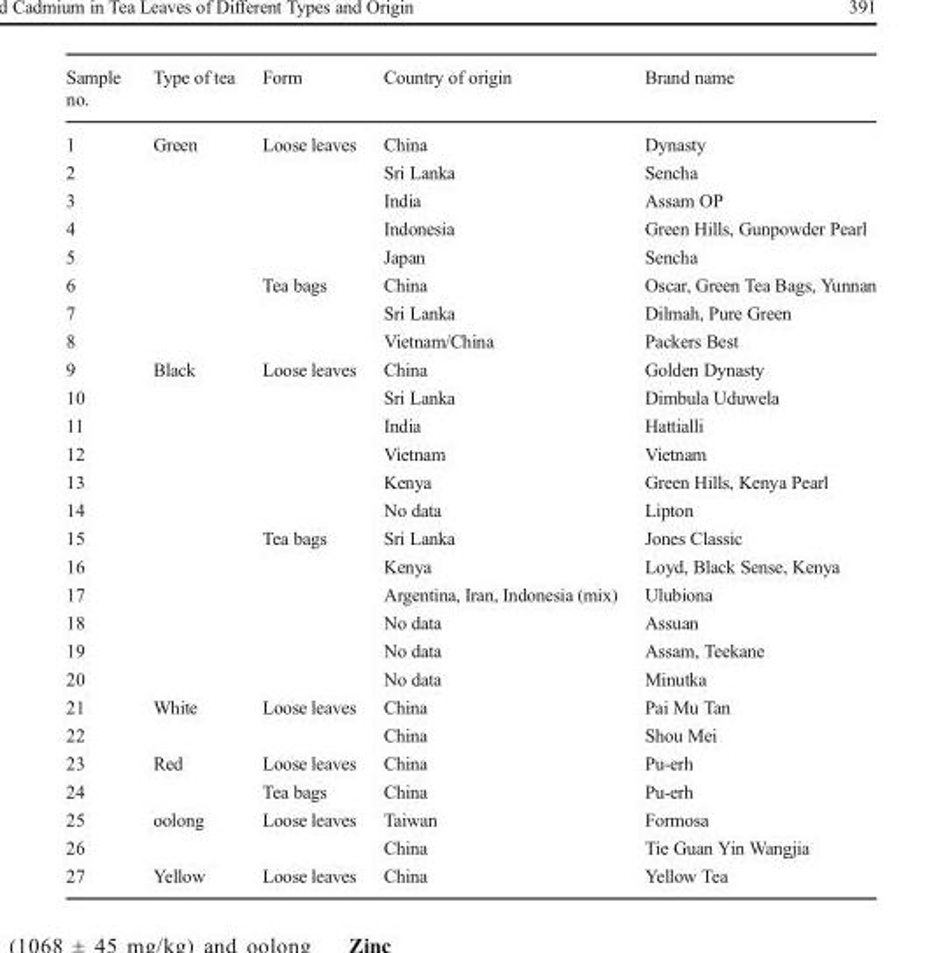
<table><thead><tr><td>Sample no.</td><td>Type of tea</td><td>Form</td><td>Country of origin</td><td>Brand name</td></tr></thead><tbody><tr><td>1</td><td rowspan="8">Green</td><td rowspan="5">Loose leaves</td><td>China</td><td>Dynasty</td></tr><tr><td>2</td><td>Sri Lanka</td><td>Sencha</td></tr><tr><td>3</td><td>India</td><td>Assam OP</td></tr><tr><td>4</td><td>Indonesia</td><td>Green Hills, Gunpowder Pearl</td></tr><tr><td>5</td><td>Japan</td><td>Sencha</td></tr><tr><td>6</td><td rowspan="3">Tea bags</td><td>China</td><td>Oscar, Green Tea Bags, Yunnan</td></tr><tr><td>7</td><td>Sri Lanka</td><td>Dilmah, Pure Green</td></tr><tr><td>8</td><td>Vietnam/China</td><td>Packers Best</td></tr><tr><td>9</td><td rowspan="12">Black</td><td rowspan="6">Loose leaves</td><td>China</td><td>Golden Dynasty</td></tr><tr><td>10</td><td>Sri Lanka</td><td>Dimbula Uduwela</td></tr><tr><td>11</td><td>India</td><td>Hattialli</td></tr><tr><td>12</td><td>Vietnam</td><td>Vietnam</td></tr><tr><td>13</td><td>Kenya</td><td>Green Hills, Kenya Pearl</td></tr><tr><td>14</td><td>No data</td><td>Lipton</td></tr><tr><td>15</td><td rowspan="6">Tea bags</td><td>Sri Lanka</td><td>Jones Classic</td></tr><tr><td>16</td><td>Kenya</td><td>Loyd, Black Sense, Kenya</td></tr><tr><td>17</td><td>Argentina, Iran, Indonesia (mix)</td><td>Ulubiona</td></tr><tr><td>18</td><td>No data</td><td>Assuan</td></tr><tr><td>19</td><td>No data</td><td>Assam, Teekane</td></tr><tr><td>20</td><td>No data</td><td>Minutka</td></tr><tr><td>21</td><td rowspan="2">White</td><td rowspan="2">Loose leaves</td><td>China</td><td>Pai Mu Tan</td></tr><tr><td>22</td><td>China</td><td>Shou Mei</td></tr><tr><td>23</td><td rowspan="2">Red</td><td>Loose leaves</td><td>China</td><td>Pu-erh</td></tr><tr><td>24</td><td>Tea bags</td><td>China</td><td>Pu-erh</td></tr><tr><td>25</td><td rowspan="2">oolong</td><td rowspan="2">Loose leaves</td><td>Taiwan</td><td>Formosa</td></tr><tr><td>26</td><td>China</td><td>Tie Guan Yin Wangjia</td></tr><tr><td>27</td><td>Yellow</td><td>Loose leaves</td><td>China</td><td>Yellow Tea</td></tr></tbody></table>